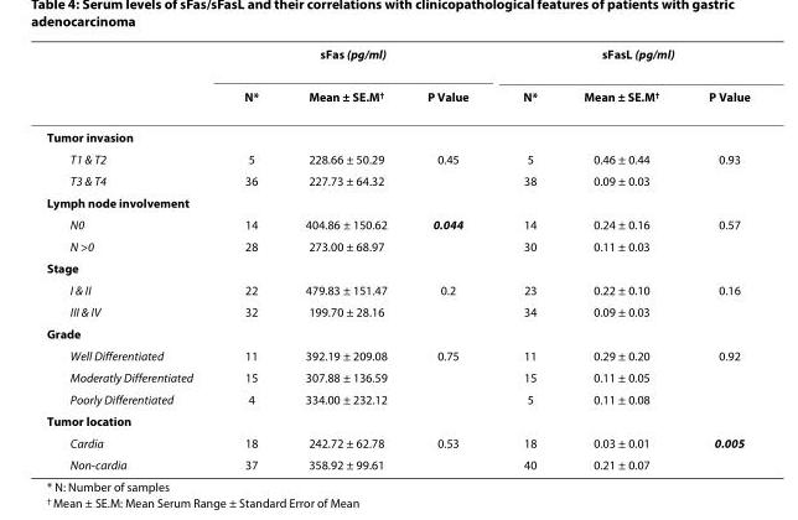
<table><thead><tr><td rowspan="2"></td><td colspan="3">sFas (pg/ml)</td><td colspan="3">sFasL (pg/ml)</td></tr><tr><td>N*</td><td>Mean ± SE.M<sup>†</sup></td><td>P Value</td><td>N*</td><td>Mean ± SE.M<sup>†</sup></td><td>P Value</td></tr></thead><tbody><tr><td colspan="7">Tumor invasion</td></tr><tr><td>T1 &amp; T2</td><td>5</td><td>228.66 ± 50.29</td><td>0.45</td><td>5</td><td>0.46 ± 0.44</td><td>0.93</td></tr><tr><td>T3 &amp; T4</td><td>36</td><td>227.73 ± 64.32</td><td></td><td>38</td><td>0.09 ± 0.03</td><td></td></tr><tr><td colspan="7">Lymph node involvement</td></tr><tr><td>N0</td><td>14</td><td>404.86 ± 150.62</td><td>0.044</td><td>14</td><td>0.24 ± 0.16</td><td>0.57</td></tr><tr><td>N &gt;0</td><td>28</td><td>273.00 ± 68.97</td><td></td><td>30</td><td>0.11 ± 0.03</td><td></td></tr><tr><td colspan="7">Stage</td></tr><tr><td>I &amp; II</td><td>22</td><td>479.83 ± 151.47</td><td>0.2</td><td>23</td><td>0.22 ± 0.10</td><td>0.16</td></tr><tr><td>III &amp; IV</td><td>32</td><td>199.70 ± 28.16</td><td></td><td>34</td><td>0.09 ± 0.03</td><td></td></tr><tr><td colspan="7">Grade</td></tr><tr><td>Well Differentiated</td><td>11</td><td>392.19 ± 209.08</td><td>0.75</td><td>11</td><td>0.29 ± 0.20</td><td>0.92</td></tr><tr><td>Moderatly Differentiated</td><td>15</td><td>307.88 ± 136.59</td><td></td><td>15</td><td>0.11 ± 0.05</td><td></td></tr><tr><td>Poorly Differentiated</td><td>4</td><td>334.00 ± 232.12</td><td></td><td>5</td><td>0.11 ± 0.08</td><td></td></tr><tr><td colspan="7">Tumor location</td></tr><tr><td>Cardia</td><td>18</td><td>242.72 ± 62.78</td><td>0.53</td><td>18</td><td>0.03 ± 0.01</td><td>0.005</td></tr><tr><td>Non-cardia</td><td>37</td><td>358.92 ± 99.61</td><td></td><td>40</td><td>0.21 ± 0.07</td><td></td></tr></tbody></table>